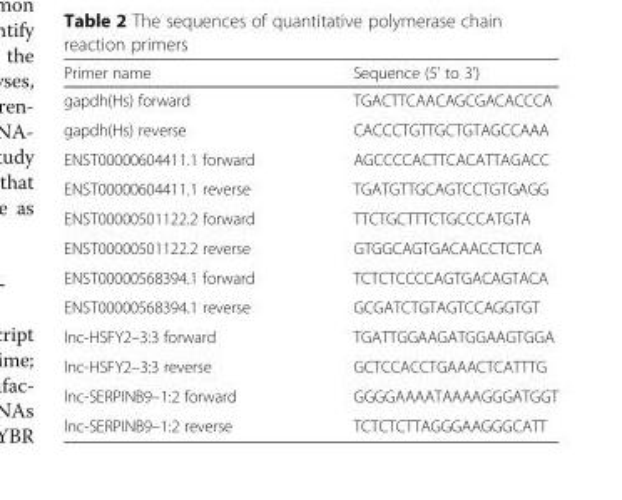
<table><thead><tr><td>Primer name</td><td>Sequence (5’ to 3’)</td></tr></thead><tbody><tr><td>gapdh(Hs) forward</td><td>TGACTTCAACAGCGACACCCA</td></tr><tr><td>gapdh(Hs) reverse</td><td>CACCCTGTTGCTGTAGCCAAA</td></tr><tr><td>ENST00000604411.1 forward</td><td>AGCCCCACTTCACATTAGACC</td></tr><tr><td>ENST00000604411.1 reverse</td><td>TGATGTTGCAGTCCTGTGAGG</td></tr><tr><td>ENST00000501122.2 forward</td><td>TTCTGCTTTCTGCCCATGTA</td></tr><tr><td>ENST00000501122.2 reverse</td><td>GTGGCAGTGACAACCTCTCA</td></tr><tr><td>ENST00000568394.1 forward</td><td>TCTCTCCCCAGTGACAGTACA</td></tr><tr><td>ENST00000568394.1 reverse</td><td>GCGATCTGTAGTCCAGGTGT</td></tr><tr><td>lnc-HSFY2–3:3 forward</td><td>TGATTGGAAGATGGAAGTGGA</td></tr><tr><td>lnc-HSFY2–3:3 reverse</td><td>GCTCCACCTGAAACTCATTTG</td></tr><tr><td>lnc-SERPINB9–1:2 forward</td><td>GGGGAAAATAAAAGGGATGGT</td></tr><tr><td>lnc-SERPINB9–1:2 reverse</td><td>TCTCTCTTAGGGAAGGGCATT</td></tr></tbody></table>